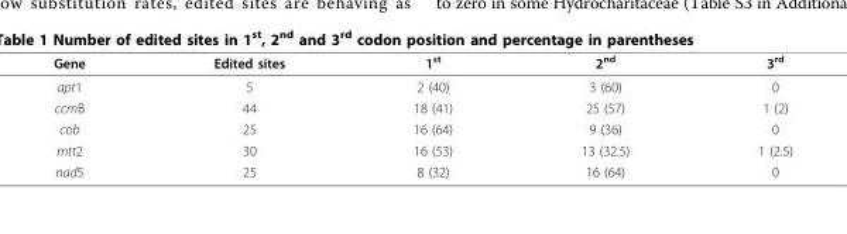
<table><thead><tr><td>Gene</td><td>Edited sites</td><td>1<sup>st</sup></td><td>2<sup>nd</sup></td><td>3<sup>rd</sup></td></tr></thead><tbody><tr><td>apt1</td><td>5</td><td>2 (40)</td><td>3 (60)</td><td>0</td></tr><tr><td>ccmB</td><td>44</td><td>18 (41)</td><td>25 (57)</td><td>1 (2)</td></tr><tr><td>cob</td><td>25</td><td>16 (64)</td><td>9 (36)</td><td>0</td></tr><tr><td>mtt2</td><td>30</td><td>16 (53)</td><td>13 (32.5)</td><td>1 (2.5)</td></tr><tr><td>nad5</td><td>25</td><td>8 (32)</td><td>16 (64)</td><td>0</td></tr></tbody></table>